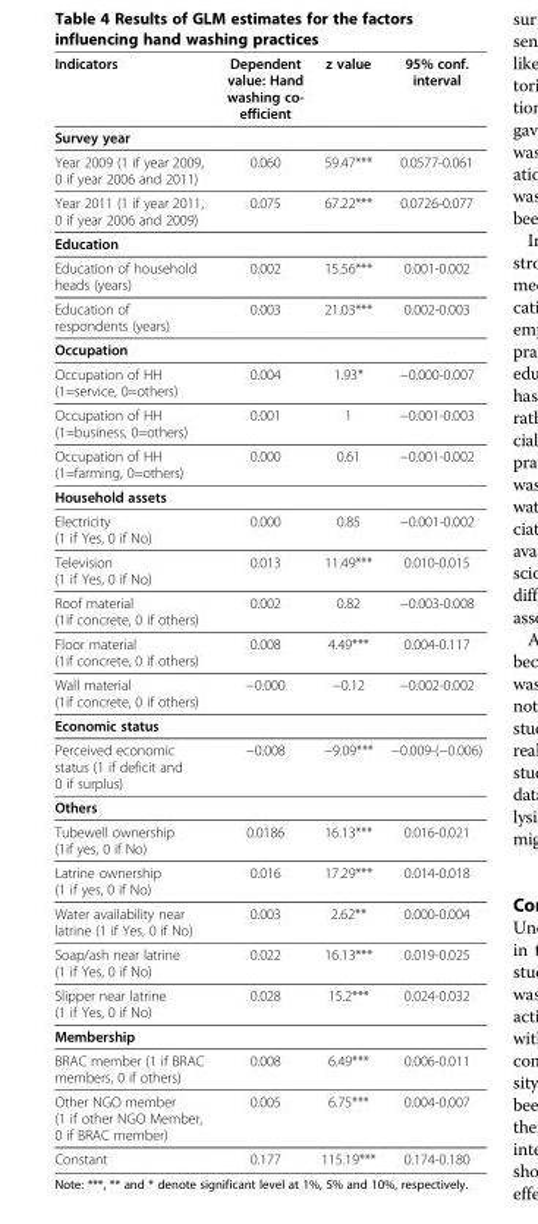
<table><thead><tr><td>Indicators</td><td>Dependent value: Hand washing co- efficient</td><td>z value</td><td>95% conf. interval</td></tr></thead><tbody><tr><td colspan="4">Survey year</td></tr><tr><td>Year 2009 (1 if year 2009, 0 if year 2006 and 2011)</td><td>0.060</td><td>59.47***</td><td>0.0577-0.061</td></tr><tr><td>Year 2011 (1 if year 2011, 0 if year 2006 and 2009)</td><td>0.075</td><td>67.22***</td><td>0.0726-0.077</td></tr><tr><td colspan="4">Education</td></tr><tr><td>Education of household heads (years)</td><td>0.002</td><td>15.56***</td><td>0.001-0.002</td></tr><tr><td>Education of respondents (years)</td><td>0.003</td><td>21.03***</td><td>0.002-0.003</td></tr><tr><td colspan="4">Occupation</td></tr><tr><td>Occupation of HH (1=service, 0=others)</td><td>0.004</td><td>1.93*</td><td>−0.000-0.007</td></tr><tr><td>Occupation of HH (1=business, 0=others)</td><td>0.001</td><td>1</td><td>−0.001-0.003</td></tr><tr><td>Occupation of HH (1=farming, 0=others)</td><td>0.000</td><td>0.61</td><td>−0.001-0.002</td></tr><tr><td colspan="4">Household assets</td></tr><tr><td>Electricity (1 if Yes, 0 if No)</td><td>0.000</td><td>0.85</td><td>−0.001-0.002</td></tr><tr><td>Television (1 if Yes, 0 if No)</td><td>0.013</td><td>11.49***</td><td>0.010-0.015</td></tr><tr><td>Roof material (1if concrete, 0 if others)</td><td>0.002</td><td>0.82</td><td>−0.003-0.008</td></tr><tr><td>Floor material (1if concrete, 0 if others)</td><td>0.008</td><td>4.49***</td><td>0.004-0.117</td></tr><tr><td>Wall material (1if concrete, 0 if others)</td><td>−0.000</td><td>−0.12</td><td>−0.002-0.002</td></tr><tr><td colspan="4">Economic status</td></tr><tr><td>Perceived economic status (1 if deficit and 0 if surplus)</td><td>−0.008</td><td>−9.09***</td><td>−0.009-(−0.006)</td></tr><tr><td colspan="4">Others</td></tr><tr><td>Tubewell ownership (1if yes, 0 if No)</td><td>0.0186</td><td>16.13***</td><td>0.016-0.021</td></tr><tr><td>Latrine ownership (1 if yes, 0 if No)</td><td>0.016</td><td>17.29***</td><td>0.014-0.018</td></tr><tr><td>Water availability near latrine (1 if Yes, 0 if No)</td><td>0.003</td><td>2.62**</td><td>0.000-0.004</td></tr><tr><td>Soap/ash near latrine (1 if Yes, 0 if No)</td><td>0.022</td><td>16.13***</td><td>0.019-0.025</td></tr><tr><td>Slipper near latrine (1 if Yes, 0 if No)</td><td>0.028</td><td>15.2***</td><td>0.024-0.032</td></tr><tr><td colspan="4">Membership</td></tr><tr><td>BRAC member (1 if BRAC members, 0 if others)</td><td>0.008</td><td>6.49***</td><td>0.006-0.011</td></tr><tr><td>Other NGO member (1 if other NGO Member, 0 if BRAC member)</td><td>0.005</td><td>6.75***</td><td>0.004-0.007</td></tr><tr><td>Constant</td><td>0.177</td><td>115.19***</td><td>0.174-0.180</td></tr></tbody></table>